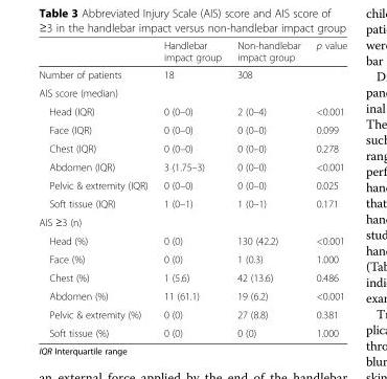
<table><thead><tr><td></td><td>Handlebar impact group</td><td>Non-handlebar impact group</td><td>p value</td></tr></thead><tbody><tr><td>Number of patients</td><td>18</td><td>308</td><td></td></tr><tr><td colspan="4">AIS score (median)</td></tr><tr><td>Head (IQR)</td><td>0 (0–0)</td><td>2 (0–4)</td><td>&lt;0.001</td></tr><tr><td>Face (IQR)</td><td>0 (0–0)</td><td>0 (0–0)</td><td>0.099</td></tr><tr><td>Chest (IQR)</td><td>0 (0–0)</td><td>0 (0–0)</td><td>0.278</td></tr><tr><td>Abdomen (IQR)</td><td>3 (1.75–3)</td><td>0 (0–0)</td><td>&lt;0.001</td></tr><tr><td>Pelvic &amp; extremity (IQR)</td><td>0 (0–0)</td><td>0 (0–0)</td><td>0.025</td></tr><tr><td>Soft tissue (IQR)</td><td>1 (0–1)</td><td>1 (0–1)</td><td>0.171</td></tr><tr><td colspan="4">AIS ≥3 (n)</td></tr><tr><td>Head (%)</td><td>0 (0)</td><td>130 (42.2)</td><td>&lt;0.001</td></tr><tr><td>Face (%)</td><td>0 (0)</td><td>1 (0.3)</td><td>1.000</td></tr><tr><td>Chest (%)</td><td>1 (5.6)</td><td>42 (13.6)</td><td>0.486</td></tr><tr><td>Abdomen (%)</td><td>11 (61.1)</td><td>19 (6.2)</td><td>&lt;0.001</td></tr><tr><td>Pelvic &amp; extremity (%)</td><td>0 (0)</td><td>27 (8.8)</td><td>0.381</td></tr><tr><td>Soft tissue (%)</td><td>0 (0)</td><td>0 (0)</td><td>1.000</td></tr></tbody></table>